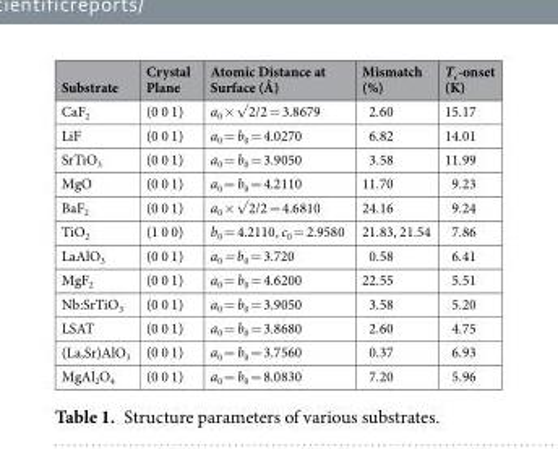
<table><thead><tr><td>Substrate</td><td>Crystal Plane</td><td>Atomic Distance at Surface (Å)</td><td>Mismatch (%)</td><td>T<sub>c</sub>-onset (K)</td></tr></thead><tbody><tr><td>CaF<sub>2</sub></td><td>(0 0 1)</td><td>a<sub>0</sub> × √2/2 = 3.8679</td><td>2.60</td><td>15.17</td></tr><tr><td>LiF</td><td>(0 0 1)</td><td>a<sub>0</sub> = b<sub>0</sub> = 4.0270</td><td>6.82</td><td>14.01</td></tr><tr><td>SrTiO<sub>3</sub></td><td>(0 0 1)</td><td>a<sub>0</sub> = b<sub>0</sub> = 3.9050</td><td>3.58</td><td>11.99</td></tr><tr><td>MgO</td><td>(0 0 1)</td><td>a<sub>0</sub> = b<sub>0</sub> = 4.2110</td><td>11.70</td><td>9.23</td></tr><tr><td>BaF<sub>2</sub></td><td>(0 0 1)</td><td>a<sub>0</sub> × √2/2 = 4.6810</td><td>24.16</td><td>9.24</td></tr><tr><td>TiO<sub>2</sub></td><td>(1 0 0)</td><td>b<sub>0</sub> = 4.2110, c<sub>0</sub> = 2.9580</td><td>21.83, 21.54</td><td>7.86</td></tr><tr><td>LaAlO<sub>3</sub></td><td>(0 0 1)</td><td>a<sub>0</sub> = b<sub>0</sub> = 3.720</td><td>0.58</td><td>6.41</td></tr><tr><td>MgF<sub>2</sub></td><td>(0 0 1)</td><td>a<sub>0</sub> = b<sub>0</sub> = 4.6200</td><td>22.55</td><td>5.51</td></tr><tr><td>Nb:SrTiO<sub>3</sub></td><td>(0 0 1)</td><td>a<sub>0</sub> = b<sub>0</sub> = 3.9050</td><td>3.58</td><td>5.20</td></tr><tr><td>LSAT</td><td>(0 0 1)</td><td>a<sub>0</sub> = b<sub>0</sub> = 3.8680</td><td>2.60</td><td>4.75</td></tr><tr><td>(La,Sr)AlO<sub>3</sub></td><td>(0 0 1)</td><td>a<sub>0</sub> = b<sub>0</sub> = 3.7560</td><td>0.37</td><td>6.93</td></tr><tr><td>MgAl<sub>2</sub>O<sub>4</sub></td><td>(0 0 1)</td><td>a<sub>0</sub> = b<sub>0</sub> = 8.0830</td><td>7.20</td><td>5.96</td></tr></tbody></table>